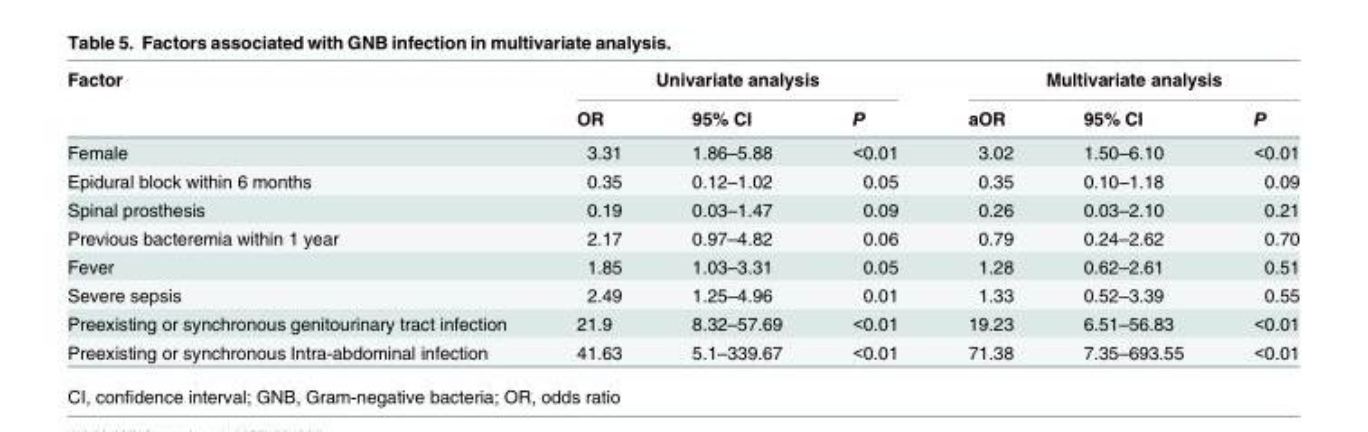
<table><thead><tr><td rowspan="2">Factor</td><td colspan="3">Univariate analysis</td><td colspan="3">Multivariate analysis</td></tr><tr><td>OR</td><td>95% CI</td><td>P</td><td>aOR</td><td>95% CI</td><td>P</td></tr></thead><tbody><tr><td>Female</td><td>3.31</td><td>1.86–5.88</td><td>&lt;0.01</td><td>3.02</td><td>1.50–6.10</td><td>&lt;0.01</td></tr><tr><td>Epidural block within 6 months</td><td>0.35</td><td>0.12–1.02</td><td>0.05</td><td>0.35</td><td>0.10–1.18</td><td>0.09</td></tr><tr><td>Spinal prosthesis</td><td>0.19</td><td>0.03–1.47</td><td>0.09</td><td>0.26</td><td>0.03–2.10</td><td>0.21</td></tr><tr><td>Previous bacteremia within 1 year</td><td>2.17</td><td>0.97–4.82</td><td>0.06</td><td>0.79</td><td>0.24–2.62</td><td>0.70</td></tr><tr><td>Fever</td><td>1.85</td><td>1.03–3.31</td><td>0.05</td><td>1.28</td><td>0.62–2.61</td><td>0.51</td></tr><tr><td>Severe sepsis</td><td>2.49</td><td>1.25–4.96</td><td>0.01</td><td>1.33</td><td>0.52–3.39</td><td>0.55</td></tr><tr><td>Preexisting or synchronous genitourinary tract infection</td><td>21.9</td><td>8.32–57.69</td><td>&lt;0.01</td><td>19.23</td><td>6.51–56.83</td><td>&lt;0.01</td></tr><tr><td>Preexisting or synchronous Intra-abdominal infection</td><td>41.63</td><td>5.1–339.67</td><td>&lt;0.01</td><td>71.38</td><td>7.35–693.55</td><td>&lt;0.01</td></tr></tbody></table>